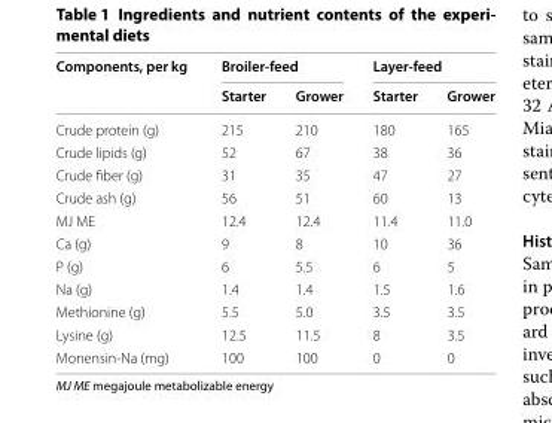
<table><thead><tr><td rowspan="2">Components, per kg</td><td colspan="2">Broiler‑feed</td><td colspan="2">Layer‑feed</td></tr><tr><td>Starter</td><td>Grower</td><td>Starter</td><td>Grower</td></tr></thead><tbody><tr><td>Crude protein (g)</td><td>215</td><td>210</td><td>180</td><td>165</td></tr><tr><td>Crude lipids (g)</td><td>52</td><td>67</td><td>38</td><td>36</td></tr><tr><td>Crude fiber (g)</td><td>31</td><td>35</td><td>47</td><td>27</td></tr><tr><td>Crude ash (g)</td><td>56</td><td>51</td><td>60</td><td>13</td></tr><tr><td>MJ ME</td><td>12.4</td><td>12.4</td><td>11.4</td><td>11.0</td></tr><tr><td>Ca (g)</td><td>9</td><td>8</td><td>10</td><td>36</td></tr><tr><td>P (g)</td><td>6</td><td>5.5</td><td>6</td><td>5</td></tr><tr><td>Na (g)</td><td>1.4</td><td>1.4</td><td>1.5</td><td>1.6</td></tr><tr><td>Methionine (g)</td><td>5.5</td><td>5.0</td><td>3.5</td><td>3.5</td></tr><tr><td>Lysine (g)</td><td>12.5</td><td>11.5</td><td>8</td><td>3.5</td></tr><tr><td>Monensin-Na (mg)</td><td>100</td><td>100</td><td>0</td><td>0</td></tr></tbody></table>